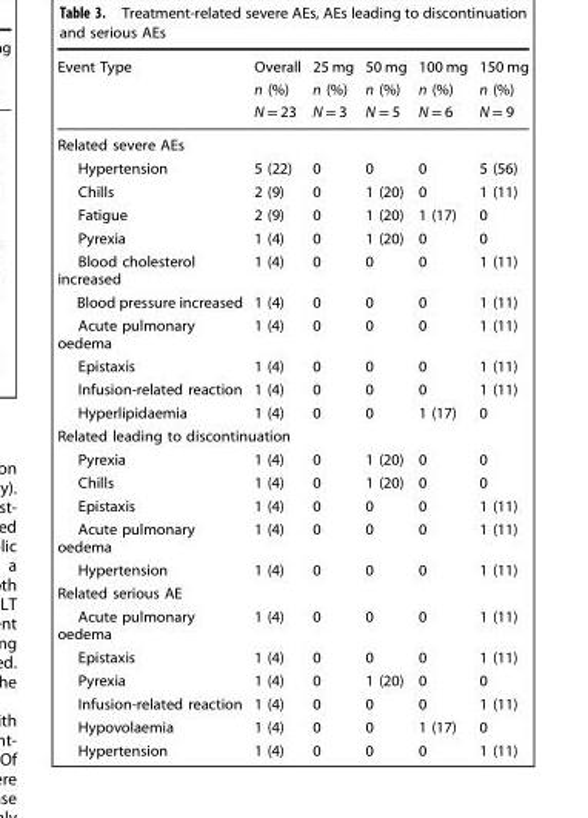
<table><thead><tr><td rowspan="3">Event Type</td><td rowspan="3">Overall n (%) N = 23</td><td rowspan="3">25 mg n (%) N = 3</td><td rowspan="3">50 mg n (%) N = 5</td><td rowspan="3">100 mg n (%) N = 6</td><td rowspan="3">150 mg n (%) N = 9</td></tr><tr></tr><tr></tr></thead><tbody><tr><td colspan="6">Related severe AEs</td></tr><tr><td>Hypertension</td><td>5 (22)</td><td>0</td><td>0</td><td>0</td><td>5 (56)</td></tr><tr><td>Chills</td><td>2 (9)</td><td>0</td><td>1 (20)</td><td>0</td><td>1 (11)</td></tr><tr><td>Fatigue</td><td>2 (9)</td><td>0</td><td>1 (20)</td><td>1 (17)</td><td>0</td></tr><tr><td>Pyrexia</td><td>1 (4)</td><td>0</td><td>1 (20)</td><td>0</td><td>0</td></tr><tr><td>Blood cholesterol increased</td><td>1 (4)</td><td>0</td><td>0</td><td>0</td><td>1 (11)</td></tr><tr><td>Blood pressure increased</td><td>1 (4)</td><td>0</td><td>0</td><td>0</td><td>1 (11)</td></tr><tr><td>Acute pulmonary oedema</td><td>1 (4)</td><td>0</td><td>0</td><td>0</td><td>1 (11)</td></tr><tr><td>Epistaxis</td><td>1 (4)</td><td>0</td><td>0</td><td>0</td><td>1 (11)</td></tr><tr><td>Infusion-related reaction</td><td>1 (4)</td><td>0</td><td>0</td><td>0</td><td>1 (11)</td></tr><tr><td>Hyperlipidaemia</td><td>1 (4)</td><td>0</td><td>0</td><td>1 (17)</td><td>0</td></tr><tr><td colspan="6">Related leading to discontinuation</td></tr><tr><td>Pyrexia</td><td>1 (4)</td><td>0</td><td>1 (20)</td><td>0</td><td>0</td></tr><tr><td>Chills</td><td>1 (4)</td><td>0</td><td>1 (20)</td><td>0</td><td>0</td></tr><tr><td>Epistaxis</td><td>1 (4)</td><td>0</td><td>0</td><td>0</td><td>1 (11)</td></tr><tr><td>Acute pulmonary oedema</td><td>1 (4)</td><td>0</td><td>0</td><td>0</td><td>1 (11)</td></tr><tr><td>Hypertension</td><td>1 (4)</td><td>0</td><td>0</td><td>0</td><td>1 (11)</td></tr><tr><td colspan="6">Related serious AE</td></tr><tr><td>Acute pulmonary oedema</td><td>1 (4)</td><td>0</td><td>0</td><td>0</td><td>1 (11)</td></tr><tr><td>Epistaxis</td><td>1 (4)</td><td>0</td><td>0</td><td>0</td><td>1 (11)</td></tr><tr><td>Pyrexia</td><td>1 (4)</td><td>0</td><td>1 (20)</td><td>0</td><td>0</td></tr><tr><td>Infusion-related reaction</td><td>1 (4)</td><td>0</td><td>0</td><td>0</td><td>1 (11)</td></tr><tr><td>Hypovolaemia</td><td>1 (4)</td><td>0</td><td>0</td><td>1 (17)</td><td>0</td></tr><tr><td>Hypertension</td><td>1 (4)</td><td>0</td><td>0</td><td>0</td><td>1 (11)</td></tr></tbody></table>